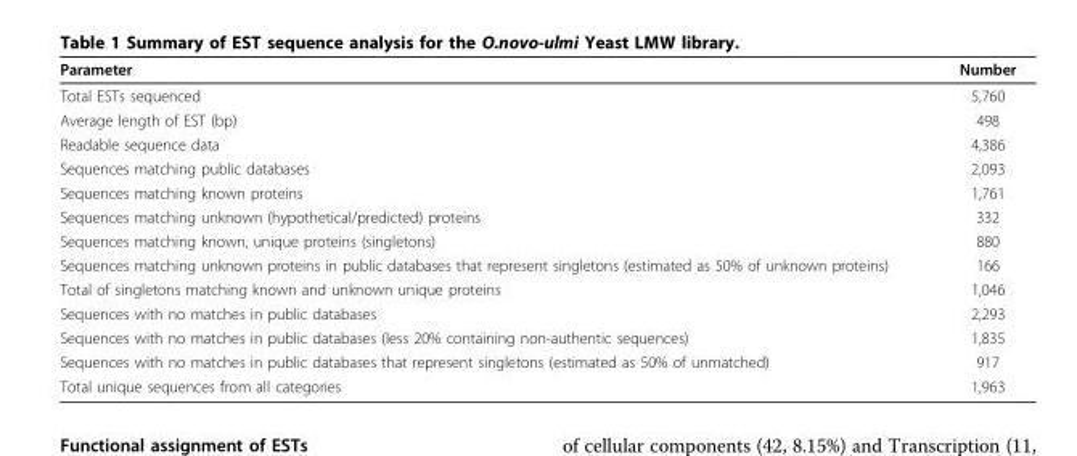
<table><thead><tr><td>Parameter</td><td>Number</td></tr></thead><tbody><tr><td>Total ESTs sequenced</td><td>5,760</td></tr><tr><td>Average length of EST (bp)</td><td>498</td></tr><tr><td>Readable sequence data</td><td>4,386</td></tr><tr><td>Sequences matching public databases</td><td>2,093</td></tr><tr><td>Sequences matching known proteins</td><td>1,761</td></tr><tr><td>Sequences matching unknown (hypothetical/predicted) proteins</td><td>332</td></tr><tr><td>Sequences matching known, unique proteins (singletons)</td><td>880</td></tr><tr><td>Sequences matching unknown proteins in public databases that represent singletons (estimated as 50% of unknown proteins)</td><td>166</td></tr><tr><td>Total of singletons matching known and unknown unique proteins</td><td>1,046</td></tr><tr><td>Sequences with no matches in public databases</td><td>2,293</td></tr><tr><td>Sequences with no matches in public databases (less 20% containing non-authentic sequences)</td><td>1,835</td></tr><tr><td>Sequences with no matches in public databases that represent singletons (estimated as 50% of unmatched)</td><td>917</td></tr><tr><td>Total unique sequences from all categories</td><td>1,963</td></tr></tbody></table>